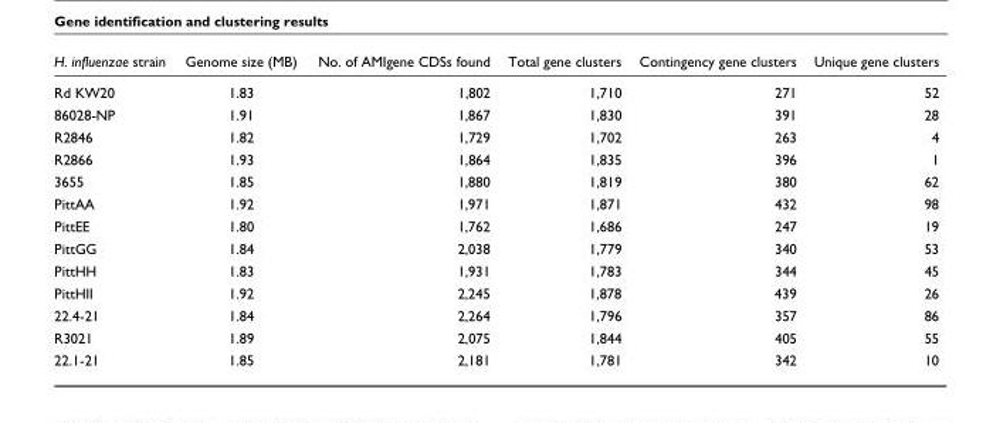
<table><thead><tr><td>H. influenzae strain</td><td>Genome size (MB)</td><td>No. of AMIgene CDSs found</td><td>Total gene clusters</td><td>Contingency gene clusters</td><td>Unique gene clusters</td></tr></thead><tbody><tr><td>Rd KW20</td><td>1.83</td><td>1,802</td><td>1,710</td><td>271</td><td>52</td></tr><tr><td>86028-NP</td><td>1.91</td><td>1,867</td><td>1,830</td><td>391</td><td>28</td></tr><tr><td>R2846</td><td>1.82</td><td>1,729</td><td>1,702</td><td>263</td><td>4</td></tr><tr><td>R2866</td><td>1.93</td><td>1,864</td><td>1,835</td><td>396</td><td>1</td></tr><tr><td>3655</td><td>1.85</td><td>1,880</td><td>1,819</td><td>380</td><td>62</td></tr><tr><td>PittAA</td><td>1.92</td><td>1,971</td><td>1,871</td><td>432</td><td>98</td></tr><tr><td>PittEE</td><td>1.80</td><td>1,762</td><td>1,686</td><td>247</td><td>19</td></tr><tr><td>PittGG</td><td>1.84</td><td>2,038</td><td>1,779</td><td>340</td><td>53</td></tr><tr><td>PittHH</td><td>1.83</td><td>1,931</td><td>1,783</td><td>344</td><td>45</td></tr><tr><td>PittHII</td><td>1.92</td><td>2,245</td><td>1,878</td><td>439</td><td>26</td></tr><tr><td>22.4-21</td><td>1.84</td><td>2,264</td><td>1,796</td><td>357</td><td>86</td></tr><tr><td>R3021</td><td>1.89</td><td>2,075</td><td>1,844</td><td>405</td><td>55</td></tr><tr><td>22.1-21</td><td>1.85</td><td>2,181</td><td>1,781</td><td>342</td><td>10</td></tr></tbody></table>